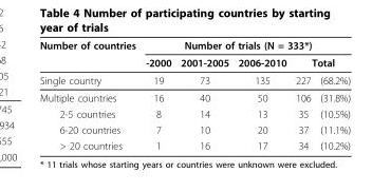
<table><thead><tr><td rowspan="3">Number of countries Single country</td><td colspan="5">Number of trials (N = 333*)</td></tr><tr><td rowspan="2">-2000 19</td><td rowspan="2">2001-2005 73</td><td rowspan="2">2006-2010 135</td><td colspan="2">Total</td></tr><tr><td>227</td><td>(68.2%)</td></tr></thead><tbody><tr><td>Multiple countries</td><td>16</td><td>40</td><td>50</td><td>106</td><td>(31.8%)</td></tr><tr><td>2-5 countries</td><td>8</td><td>14</td><td>13</td><td>35</td><td>(10.5%)</td></tr><tr><td>6-20 countries</td><td>7</td><td>10</td><td>20</td><td>37</td><td>(11.1%)</td></tr><tr><td>&gt; 20 countries</td><td>1</td><td>16</td><td>17</td><td>34</td><td>(10.2%)</td></tr></tbody></table>